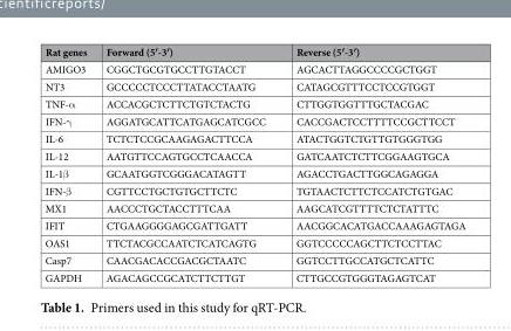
<table><thead><tr><td>Rat genes</td><td>Forward (5′-3′)</td><td>Reverse (5′-3′)</td></tr></thead><tbody><tr><td>AMIGO3</td><td>CGGCTGCGTGCCTTGTACCT</td><td>AGCACTTAGGCCCCGCTGGT</td></tr><tr><td>NT3</td><td>GCCCCCTCCCTTATACCTAATG</td><td>CATAGCGTTTCCTCCGTGGT</td></tr><tr><td>TNF-α</td><td>ACCACGCTCTTCTGTCTACTG</td><td>CTTGGTGGTTTGCTACGAC</td></tr><tr><td>IFN-γ</td><td>AGGATGCATTCATGAGCATCGCC</td><td>CACCGACTCCTTTTCCGCTTCCT</td></tr><tr><td>IL-6</td><td>TCTCTCCGCAAGAGACTTCCA</td><td>ATACTGGTCTGTTGTGGGTGG</td></tr><tr><td>IL-12</td><td>AATGTTCCAGTGCCTCAACCA</td><td>GATCAATCTCTTCGGAAGTGCA</td></tr><tr><td>IL-1β</td><td>GCAATGGTCGGGACATAGTT</td><td>AGACCTGACTTGGCAGAGGA</td></tr><tr><td>IFN-β</td><td>CGTTCCTGCTGTGCTTCTC</td><td>TGTAACTCTTCTCCATCTGTGAC</td></tr><tr><td>MX1</td><td>AACCCTGCTACCTTTCAA</td><td>AAGCATCGTTTTCTCTATTTC</td></tr><tr><td>IFIT</td><td>CTGAAGGGGAGCGATTGATT</td><td>AACGGCACATGACCAAAGAGTAGA</td></tr><tr><td>OAS1</td><td>TTCTACGCCAATCTCATCAGTG</td><td>GGTCCCCCAGCTTCTCCTTAC</td></tr><tr><td>Casp7</td><td>CAACGACACCGACGCTAATC</td><td>GGTCCTTGCCATGCTCATTC</td></tr><tr><td>GAPDH</td><td>AGACAGCCGCATCTTCTTGT</td><td>CTTGCCGTGGGTAGAGTCAT</td></tr></tbody></table>